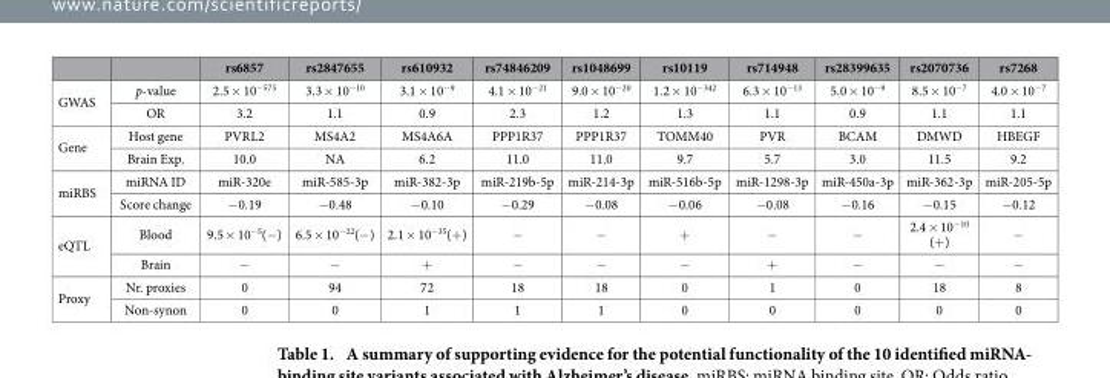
<table><thead><tr><td></td><td></td><td>rs6857</td><td>rs2847655</td><td>rs610932</td><td>rs74846209</td><td>rs1048699</td><td>rs10119</td><td>rs714948</td><td>rs28399635</td><td>rs2070736</td><td>rs7268</td></tr></thead><tbody><tr><td rowspan="2">GWAS</td><td>p-value</td><td>2.5 × 10<sup>−575</sup></td><td>3.3 × 10<sup>−10</sup></td><td>3.1 × 10<sup>−9</sup></td><td>4.1 × 10<sup>−21</sup></td><td>9.0 × 10<sup>−20</sup></td><td>1.2 × 10<sup>−342</sup></td><td>6.3 × 10<sup>−13</sup></td><td>5.0 × 10<sup>−9</sup></td><td>8.5 × 10<sup>−7</sup></td><td>4.0 × 10<sup>−7</sup></td></tr><tr><td>OR</td><td>3.2</td><td>1.1</td><td>0.9</td><td>2.3</td><td>1.2</td><td>1.3</td><td>1.1</td><td>0.9</td><td>1.1</td><td>1.1</td></tr><tr><td rowspan="2">Gene</td><td>Host gene</td><td>PVRL2</td><td>MS4A2</td><td>MS4A6A</td><td>PPP1R37</td><td>PPP1R37</td><td>TOMM40</td><td>PVR</td><td>BCAM</td><td>DMWD</td><td>HBEGF</td></tr><tr><td>Brain Exp.</td><td>10.0</td><td>NA</td><td>6.2</td><td>11.0</td><td>11.0</td><td>9.7</td><td>5.7</td><td>3.0</td><td>11.5</td><td>9.2</td></tr><tr><td rowspan="2">miRBS</td><td>miRNA ID</td><td>miR-320e</td><td>miR-585-3p</td><td>miR-382-3p</td><td>miR-219b-5p</td><td>miR-214-3p</td><td>miR-516b-5p</td><td>miR-1298-3p</td><td>miR-450a-3p</td><td>miR-362-3p</td><td>miR-205-5p</td></tr><tr><td>Score change</td><td>− 0.19</td><td>− 0.48</td><td>− 0.10</td><td>− 0.29</td><td>− 0.08</td><td>− 0.06</td><td>− 0.08</td><td>− 0.16</td><td>− 0.15</td><td>− 0.12</td></tr><tr><td rowspan="2">eQTL</td><td>Blood</td><td>9.5 × 10<sup>−5</sup>(− )</td><td>6.5 × 10<sup>−22</sup>(− )</td><td>2.1 × 10<sup>−35</sup>(+ )</td><td>−</td><td>−</td><td>+</td><td>−</td><td>−</td><td>2.4 × 10<sup>−10</sup> (+ )</td><td>−</td></tr><tr><td>Brain</td><td>−</td><td>−</td><td>+</td><td>−</td><td>−</td><td>−</td><td>+</td><td>−</td><td>−</td><td>−</td></tr><tr><td rowspan="2">Proxy</td><td>Nr. proxies</td><td>0</td><td>94</td><td>72</td><td>18</td><td>18</td><td>0</td><td>1</td><td>0</td><td>18</td><td>8</td></tr><tr><td>Non-synon</td><td>0</td><td>0</td><td>1</td><td>1</td><td>1</td><td>0</td><td>0</td><td>0</td><td>0</td><td>0</td></tr></tbody></table>